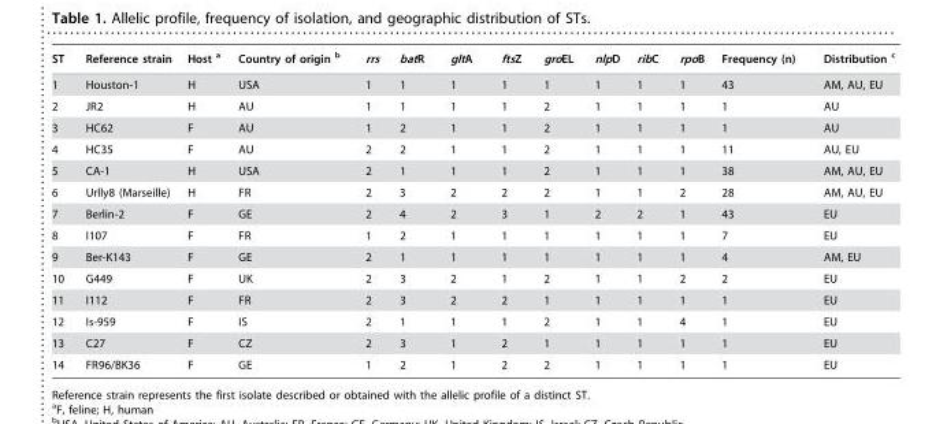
<table><thead><tr><td>ST</td><td>Reference strain</td><td>Host a</td><td>Country of origin b</td><td>rrs</td><td>batR</td><td>gltA</td><td>ftsZ</td><td>groEL</td><td>nlpD</td><td>ribC</td><td>rpoB</td><td>Frequency (n)</td><td>Distribution c</td></tr></thead><tbody><tr><td>1</td><td>Houston-1</td><td>H</td><td>USA</td><td>1</td><td>1</td><td>1</td><td>1</td><td>1</td><td>1</td><td>1</td><td>1</td><td>43</td><td>AM, AU, EU</td></tr><tr><td>2</td><td>JR2</td><td>H</td><td>AU</td><td>1</td><td>1</td><td>1</td><td>1</td><td>2</td><td>1</td><td>1</td><td>1</td><td>1</td><td>AU</td></tr><tr><td>3</td><td>HC62</td><td>F</td><td>AU</td><td>1</td><td>2</td><td>1</td><td>1</td><td>2</td><td>1</td><td>1</td><td>1</td><td>1</td><td>AU</td></tr><tr><td>4</td><td>HC35</td><td>F</td><td>AU</td><td>2</td><td>2</td><td>1</td><td>1</td><td>2</td><td>1</td><td>1</td><td>1</td><td>11</td><td>AU, EU</td></tr><tr><td>5</td><td>CA-1</td><td>H</td><td>USA</td><td>2</td><td>1</td><td>1</td><td>1</td><td>2</td><td>1</td><td>1</td><td>1</td><td>38</td><td>AM, AU, EU</td></tr><tr><td>6</td><td>Urlly8 (Marseille)</td><td>H</td><td>FR</td><td>2</td><td>3</td><td>2</td><td>2</td><td>2</td><td>1</td><td>1</td><td>2</td><td>28</td><td>AM, AU, EU</td></tr><tr><td>7</td><td>Berlin-2</td><td>F</td><td>GE</td><td>2</td><td>4</td><td>2</td><td>3</td><td>1</td><td>2</td><td>2</td><td>1</td><td>43</td><td>EU</td></tr><tr><td>8</td><td>I107</td><td>F</td><td>FR</td><td>1</td><td>2</td><td>1</td><td>1</td><td>1</td><td>1</td><td>1</td><td>1</td><td>7</td><td>EU</td></tr><tr><td>9</td><td>Ber-K143</td><td>F</td><td>GE</td><td>2</td><td>1</td><td>1</td><td>1</td><td>1</td><td>1</td><td>1</td><td>1</td><td>4</td><td>AM, EU</td></tr><tr><td>10</td><td>G449</td><td>F</td><td>UK</td><td>2</td><td>3</td><td>2</td><td>1</td><td>2</td><td>1</td><td>1</td><td>2</td><td>2</td><td>EU</td></tr><tr><td>11</td><td>I112</td><td>F</td><td>FR</td><td>2</td><td>3</td><td>2</td><td>2</td><td>1</td><td>1</td><td>1</td><td>1</td><td>1</td><td>EU</td></tr><tr><td>12</td><td>Is-959</td><td>F</td><td>IS</td><td>2</td><td>1</td><td>1</td><td>1</td><td>2</td><td>1</td><td>1</td><td>4</td><td>1</td><td>EU</td></tr><tr><td>13</td><td>C27</td><td>F</td><td>CZ</td><td>2</td><td>3</td><td>1</td><td>2</td><td>1</td><td>1</td><td>1</td><td>1</td><td>1</td><td>EU</td></tr><tr><td>14</td><td>FR96/BK36</td><td>F</td><td>GE</td><td>1</td><td>2</td><td>1</td><td>2</td><td>2</td><td>1</td><td>1</td><td>1</td><td>1</td><td>EU</td></tr></tbody></table>